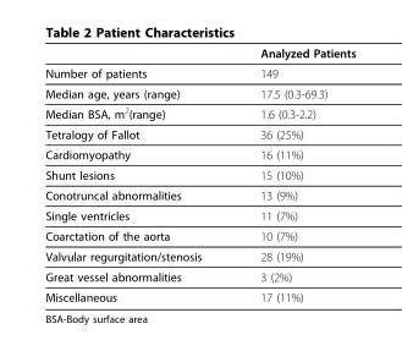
<table><thead><tr><td></td><td>Analyzed Patients</td></tr></thead><tbody><tr><td>Number of patients</td><td>149</td></tr><tr><td>Median age, years (range)</td><td>17.5 (0.3-69.3)</td></tr><tr><td>Median BSA, m<sup>2</sup>(range)</td><td>1.6 (0.3-2.2)</td></tr><tr><td>Tetralogy of Fallot</td><td>36 (25%)</td></tr><tr><td>Cardiomyopathy</td><td>16 (11%)</td></tr><tr><td>Shunt lesions</td><td>15 (10%)</td></tr><tr><td>Conotruncal abnormalities</td><td>13 (9%)</td></tr><tr><td>Single ventricles</td><td>11 (7%)</td></tr><tr><td>Coarctation of the aorta</td><td>10 (7%)</td></tr><tr><td>Valvular regurgitation/stenosis</td><td>28 (19%)</td></tr><tr><td>Great vessel abnormalities</td><td>3 (2%)</td></tr><tr><td>Miscellaneous</td><td>17 (11%)</td></tr></tbody></table>